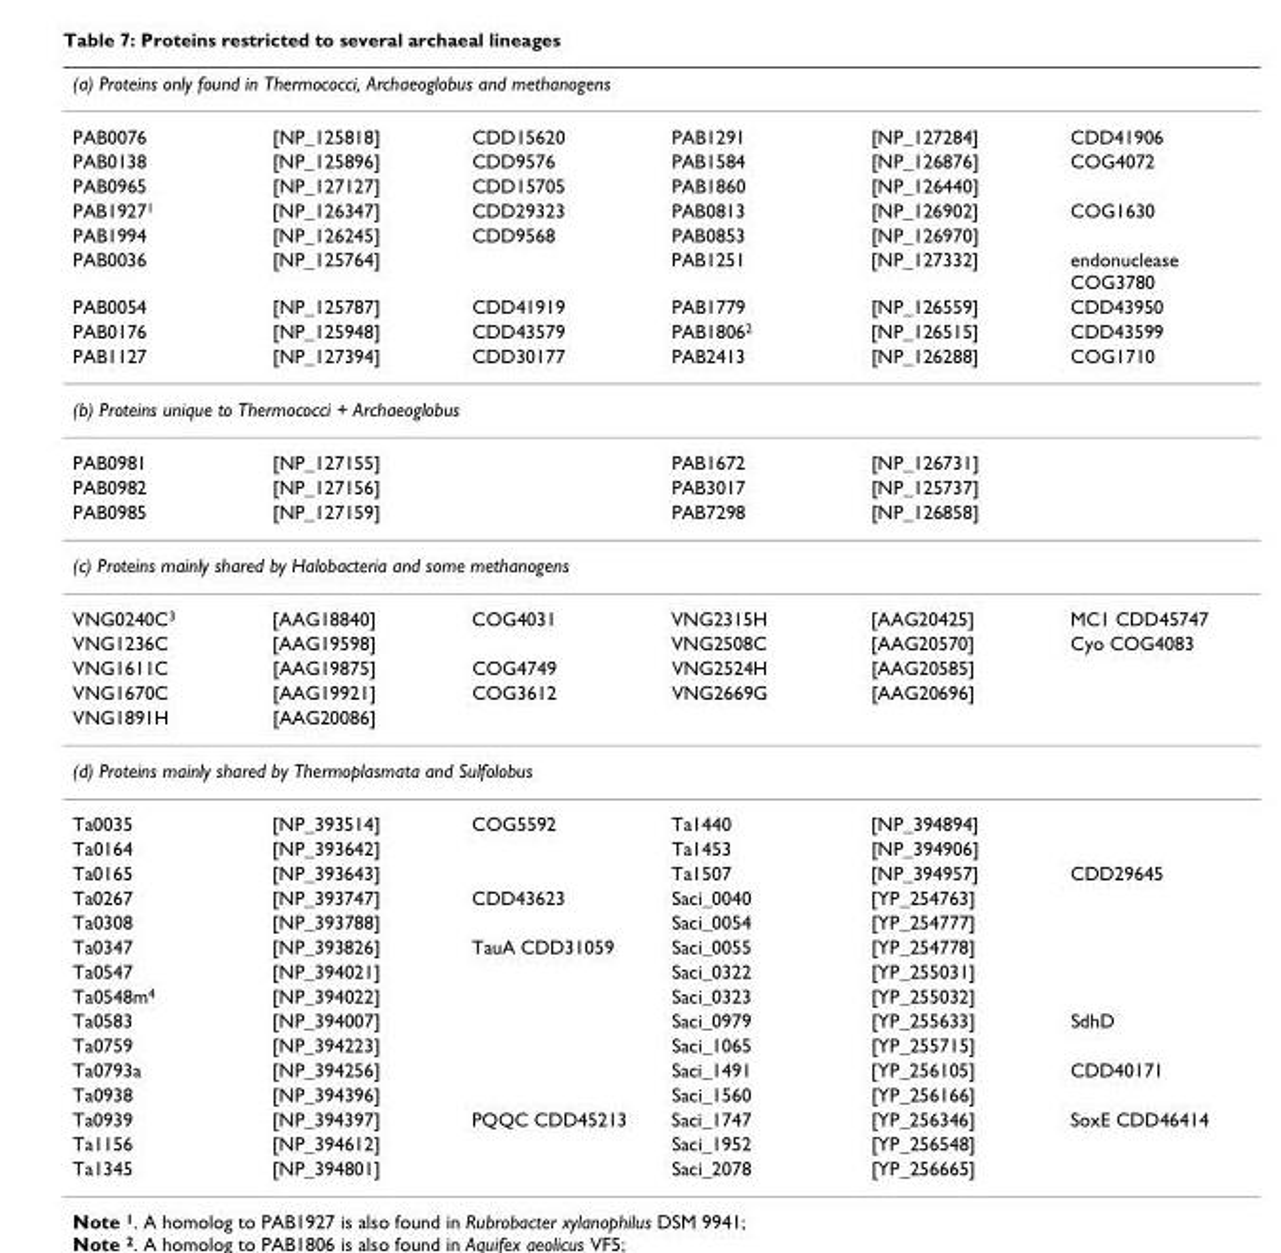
<table><thead><tr><td colspan="6">(a) Proteins only found in Thermococci, Archaeoglobus and methanogens</td></tr><tr><td>PAB0076</td><td>[NP_125818]</td><td>CDD15620</td><td>PAB1291</td><td>[NP_127284]</td><td>CDD41906</td></tr></thead><tbody><tr><td>PAB0138</td><td>[NP_125896]</td><td>CDD9576</td><td>PAB1584</td><td>[NP_126876]</td><td>COG4072</td></tr><tr><td>PAB0965</td><td>[NP_127127]</td><td>CDD15705</td><td>PAB1860</td><td>[NP_126440]</td><td></td></tr><tr><td>PAB19271</td><td>[NP_126347]</td><td>CDD29323</td><td>PAB0813</td><td>[NP_126902]</td><td>COG1630</td></tr><tr><td>PAB1994</td><td>[NP_126245]</td><td>CDD9568</td><td>PAB0853</td><td>[NP_126970]</td><td></td></tr><tr><td>PAB0036</td><td>[NP_125764]</td><td></td><td>PAB1251</td><td>[NP_127332]</td><td>endonuclease COG3780</td></tr><tr><td>PAB0054</td><td>[NP_125787]</td><td>CDD41919</td><td>PAB1779</td><td>[NP_126559]</td><td>CDD43950</td></tr><tr><td>PAB0176</td><td>[NP_125948]</td><td>CDD43579</td><td>PAB18062</td><td>[NP_126515]</td><td>CDD43599</td></tr><tr><td>PAB1127</td><td>[NP_127394]</td><td>CDD30177</td><td>PAB2413</td><td>[NP_126288]</td><td>COG1710</td></tr><tr><td colspan="6">(b) Proteins unique to Thermococci + Archaeoglobus</td></tr><tr><td>PAB0981</td><td>[NP_127155]</td><td></td><td>PAB1672</td><td>[NP_126731]</td><td></td></tr><tr><td>PAB0982</td><td>[NP_127156]</td><td></td><td>PAB3017</td><td>[NP_125737]</td><td></td></tr><tr><td>PAB0985</td><td>[NP_127159]</td><td></td><td>PAB7298</td><td>[NP_126858]</td><td></td></tr><tr><td colspan="6">(c) Proteins mainly shared by Halobacteria and some methanogens</td></tr><tr><td>VNG0240C3</td><td>[AAG18840]</td><td>COG4031</td><td>VNG2315H</td><td>[AAG20425]</td><td>MC1 CDD45747</td></tr><tr><td>VNG1236C</td><td>[AAG19598]</td><td></td><td>VNG2508C</td><td>[AAG20570]</td><td>Cyo COG4083</td></tr><tr><td>VNG1611C</td><td>[AAG19875]</td><td>COG4749</td><td>VNG2524H</td><td>[AAG20585]</td><td></td></tr><tr><td>VNG1670C</td><td>[AAG19921]</td><td>COG3612</td><td>VNG2669G</td><td>[AAG20696]</td><td></td></tr><tr><td>VNG1891H</td><td>[AAG20086]</td><td></td><td></td><td></td><td></td></tr><tr><td colspan="6">(d) Proteins mainly shared by Thermoplasmata and Sulfolobus</td></tr><tr><td>Ta0035</td><td>[NP_393514]</td><td>COG5592</td><td>Ta1440</td><td>[NP_394894]</td><td></td></tr><tr><td>Ta0164</td><td>[NP_393642]</td><td></td><td>Ta1453</td><td>[NP_394906]</td><td></td></tr><tr><td>Ta0165</td><td>[NP_393643]</td><td></td><td>Ta1507</td><td>[NP_394957]</td><td>CDD29645</td></tr><tr><td>Ta0267</td><td>[NP_393747]</td><td>CDD43623</td><td>Saci_0040</td><td>[YP_254763]</td><td></td></tr><tr><td>Ta0308</td><td>[NP_393788]</td><td></td><td>Saci_0054</td><td>[YP_254777]</td><td></td></tr><tr><td>Ta0347</td><td>[NP_393826]</td><td>TauA CDD31059</td><td>Saci_0055</td><td>[YP_254778]</td><td></td></tr><tr><td>Ta0547</td><td>[NP_394021]</td><td></td><td>Saci_0322</td><td>[YP_255031]</td><td></td></tr><tr><td>Ta0548m4</td><td>[NP_394022]</td><td></td><td>Saci_0323</td><td>[YP_255032]</td><td></td></tr><tr><td>Ta0583</td><td>[NP_394007]</td><td></td><td>Saci_0979</td><td>[YP_255633]</td><td>SdhD</td></tr><tr><td>Ta0759</td><td>[NP_394223]</td><td></td><td>Saci_1065</td><td>[YP_255715]</td><td></td></tr><tr><td>Ta0793a</td><td>[NP_394256]</td><td></td><td>Saci_1491</td><td>[YP_256105]</td><td>CDD40171</td></tr><tr><td>Ta0938</td><td>[NP_394396]</td><td></td><td>Saci_1560</td><td>[YP_256166]</td><td></td></tr><tr><td>Ta0939</td><td>[NP_394397]</td><td>PQQC CDD45213</td><td>Saci_1747</td><td>[YP_256346]</td><td>SoxE CDD46414</td></tr><tr><td>Ta1156</td><td>[NP_394612]</td><td></td><td>Saci_1952</td><td>[YP_256548]</td><td></td></tr><tr><td>Ta1345</td><td>[NP_394801]</td><td></td><td>Saci_2078</td><td>[YP_256665]</td><td></td></tr></tbody></table>